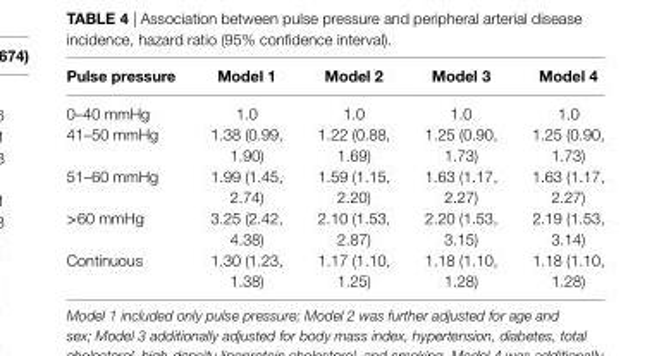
<table><thead><tr><td>Pulse pressure</td><td>Model 1</td><td>Model 2</td><td>Model 3</td><td>Model 4</td></tr></thead><tbody><tr><td>0–40 mmHg</td><td>1.0</td><td>1.0</td><td>1.0</td><td>1.0</td></tr><tr><td>41–50 mmHg</td><td>1.38 (0.99, 1.90)</td><td>1.22 (0.88, 1.69)</td><td>1.25 (0.90, 1.73)</td><td>1.25 (0.90, 1.73)</td></tr><tr><td>51–60 mmHg</td><td>1.99 (1.45, 2.74)</td><td>1.59 (1.15, 2.20)</td><td>1.63 (1.17, 2.27)</td><td>1.63 (1.17, 2.27)</td></tr><tr><td>&gt;60 mmHg</td><td>3.25 (2.42, 4.38)</td><td>2.10 (1.53, 2.87)</td><td>2.20 (1.53, 3.15)</td><td>2.19 (1.53, 3.14)</td></tr><tr><td>Continuous</td><td>1.30 (1.23, 1.38)</td><td>1.17 (1.10, 1.25)</td><td>1.18 (1.10, 1.28)</td><td>1.18 (1.10, 1.28)</td></tr></tbody></table>